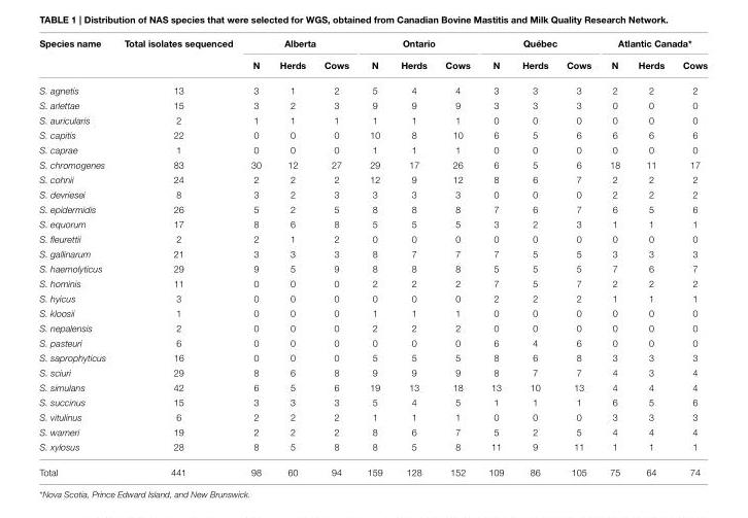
<table><thead><tr><td rowspan="2">Species name</td><td rowspan="2">Total isolates sequenced</td><td colspan="3">Alberta</td><td colspan="3">Ontario</td><td colspan="3">Québec</td><td colspan="3">Atlantic Canada*</td></tr><tr><td>N</td><td>Herds</td><td>Cows</td><td>N</td><td>Herds</td><td>Cows</td><td>N</td><td>Herds</td><td>Cows</td><td>N</td><td>Herds</td><td>Cows</td></tr></thead><tbody><tr><td>S. agnetis</td><td>13</td><td>3</td><td>1</td><td>2</td><td>5</td><td>4</td><td>4</td><td>3</td><td>3</td><td>3</td><td>2</td><td>2</td><td>2</td></tr><tr><td>S. arlettae</td><td>15</td><td>3</td><td>2</td><td>3</td><td>9</td><td>9</td><td>9</td><td>3</td><td>3</td><td>3</td><td>0</td><td>0</td><td>0</td></tr><tr><td>S. auricularis</td><td>2</td><td>1</td><td>1</td><td>1</td><td>1</td><td>1</td><td>1</td><td>0</td><td>0</td><td>0</td><td>0</td><td>0</td><td>0</td></tr><tr><td>S. capitis</td><td>22</td><td>0</td><td>0</td><td>0</td><td>10</td><td>8</td><td>10</td><td>6</td><td>5</td><td>6</td><td>6</td><td>6</td><td>6</td></tr><tr><td>S. caprae</td><td>1</td><td>0</td><td>0</td><td>0</td><td>1</td><td>1</td><td>1</td><td>0</td><td>0</td><td>0</td><td>0</td><td>0</td><td>0</td></tr><tr><td>S. chromogenes</td><td>83</td><td>30</td><td>12</td><td>27</td><td>29</td><td>17</td><td>26</td><td>6</td><td>5</td><td>6</td><td>18</td><td>11</td><td>17</td></tr><tr><td>S. cohnii</td><td>24</td><td>2</td><td>2</td><td>2</td><td>12</td><td>9</td><td>12</td><td>8</td><td>6</td><td>7</td><td>2</td><td>2</td><td>2</td></tr><tr><td>S. devriesei</td><td>8</td><td>3</td><td>2</td><td>3</td><td>3</td><td>3</td><td>3</td><td>0</td><td>0</td><td>0</td><td>2</td><td>2</td><td>2</td></tr><tr><td>S. epidermidis</td><td>26</td><td>5</td><td>2</td><td>5</td><td>8</td><td>8</td><td>8</td><td>7</td><td>6</td><td>7</td><td>6</td><td>5</td><td>6</td></tr><tr><td>S. equorum</td><td>17</td><td>8</td><td>6</td><td>8</td><td>5</td><td>5</td><td>5</td><td>3</td><td>2</td><td>3</td><td>1</td><td>1</td><td>1</td></tr><tr><td>S. fleurettii</td><td>2</td><td>2</td><td>1</td><td>2</td><td>0</td><td>0</td><td>0</td><td>0</td><td>0</td><td>0</td><td>0</td><td>0</td><td>0</td></tr><tr><td>S. gallinarum</td><td>21</td><td>3</td><td>3</td><td>3</td><td>8</td><td>7</td><td>7</td><td>7</td><td>5</td><td>5</td><td>3</td><td>3</td><td>3</td></tr><tr><td>S. haemolyticus</td><td>29</td><td>9</td><td>5</td><td>9</td><td>8</td><td>8</td><td>8</td><td>5</td><td>5</td><td>5</td><td>7</td><td>6</td><td>7</td></tr><tr><td>S. hominis</td><td>11</td><td>0</td><td>0</td><td>0</td><td>2</td><td>2</td><td>2</td><td>7</td><td>5</td><td>7</td><td>2</td><td>2</td><td>2</td></tr><tr><td>S. hyicus</td><td>3</td><td>0</td><td>0</td><td>0</td><td>0</td><td>0</td><td>0</td><td>2</td><td>2</td><td>2</td><td>1</td><td>1</td><td>1</td></tr><tr><td>S. kloosii</td><td>1</td><td>0</td><td>0</td><td>0</td><td>1</td><td>1</td><td>1</td><td>0</td><td>0</td><td>0</td><td>0</td><td>0</td><td>0</td></tr><tr><td>S. nepalensis</td><td>2</td><td>0</td><td>0</td><td>0</td><td>2</td><td>2</td><td>2</td><td>0</td><td>0</td><td>0</td><td>0</td><td>0</td><td>0</td></tr><tr><td>S. pasteuri</td><td>6</td><td>0</td><td>0</td><td>0</td><td>0</td><td>0</td><td>0</td><td>6</td><td>4</td><td>6</td><td>0</td><td>0</td><td>0</td></tr><tr><td>S. saprophyticus</td><td>16</td><td>0</td><td>0</td><td>0</td><td>5</td><td>5</td><td>5</td><td>8</td><td>6</td><td>8</td><td>3</td><td>3</td><td>3</td></tr><tr><td>S. sciuri</td><td>29</td><td>8</td><td>6</td><td>8</td><td>9</td><td>9</td><td>9</td><td>8</td><td>7</td><td>7</td><td>4</td><td>3</td><td>4</td></tr><tr><td>S. simulans</td><td>42</td><td>6</td><td>5</td><td>6</td><td>19</td><td>13</td><td>18</td><td>13</td><td>10</td><td>13</td><td>4</td><td>4</td><td>4</td></tr><tr><td>S. succinus</td><td>15</td><td>3</td><td>3</td><td>3</td><td>5</td><td>4</td><td>5</td><td>1</td><td>1</td><td>1</td><td>6</td><td>5</td><td>6</td></tr><tr><td>S. vitulinus</td><td>6</td><td>2</td><td>2</td><td>2</td><td>1</td><td>1</td><td>1</td><td>0</td><td>0</td><td>0</td><td>3</td><td>3</td><td>3</td></tr><tr><td>S. warneri</td><td>19</td><td>2</td><td>2</td><td>2</td><td>8</td><td>6</td><td>7</td><td>5</td><td>2</td><td>5</td><td>4</td><td>4</td><td>4</td></tr><tr><td>S. xylosus</td><td>28</td><td>8</td><td>5</td><td>8</td><td>8</td><td>5</td><td>8</td><td>11</td><td>9</td><td>11</td><td>1</td><td>1</td><td>1</td></tr><tr><td>Total</td><td>441</td><td>98</td><td>60</td><td>94</td><td>159</td><td>128</td><td>152</td><td>109</td><td>86</td><td>105</td><td>75</td><td>64</td><td>74</td></tr></tbody></table>